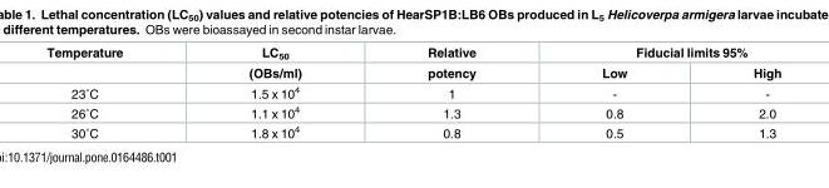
<table><thead><tr><td rowspan="2">Temperature</td><td rowspan="2">LC<sub>50</sub> (OBs/ml)</td><td rowspan="2">Relative potency</td><td colspan="2">Fiducial limits 95%</td></tr><tr><td>Low</td><td>High</td></tr></thead><tbody><tr><td>23˚C</td><td>1.5 x 10<sup>4</sup></td><td>1</td><td>-</td><td>-</td></tr><tr><td>26˚C</td><td>1.1 x 10<sup>4</sup></td><td>1.3</td><td>0.8</td><td>2.0</td></tr><tr><td>30˚C</td><td>1.8 x 10<sup>4</sup></td><td>0.8</td><td>0.5</td><td>1.3</td></tr></tbody></table>